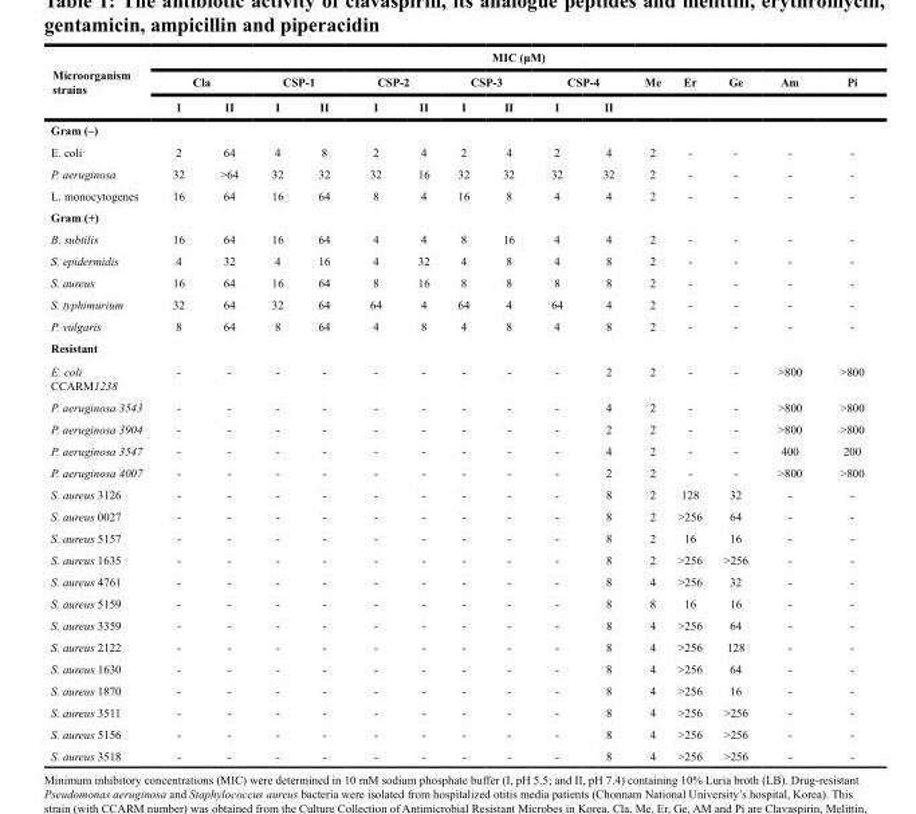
<table><thead><tr><td rowspan="3">Microorganism strains</td><td colspan="15">MIC (μM)</td></tr><tr><td colspan="2">Cla</td><td colspan="2">CSP-1</td><td colspan="2">CSP-2</td><td colspan="2">CSP-3</td><td colspan="2">CSP-4</td><td rowspan="2">Me</td><td rowspan="2">Er</td><td rowspan="2">Ge</td><td rowspan="2">Am</td><td rowspan="2">Pi</td></tr><tr><td>I</td><td>II</td><td>I</td><td>II</td><td>I</td><td>II</td><td>I</td><td>II</td><td>I</td><td>II</td></tr></thead><tbody><tr><td colspan="16">Gram (–)</td></tr><tr><td>E. coli</td><td>2</td><td>64</td><td>4</td><td>8</td><td>2</td><td>4</td><td>2</td><td>4</td><td>2</td><td>4</td><td>2</td><td>-</td><td>-</td><td>-</td><td>-</td></tr><tr><td>P. aeruginosa</td><td>32</td><td>&gt;64</td><td>32</td><td>32</td><td>32</td><td>16</td><td>32</td><td>32</td><td>32</td><td>32</td><td>2</td><td>-</td><td>-</td><td>-</td><td>-</td></tr><tr><td>L. monocytogenes</td><td>16</td><td>64</td><td>16</td><td>64</td><td>8</td><td>4</td><td>16</td><td>8</td><td>4</td><td>4</td><td>2</td><td>-</td><td>-</td><td>-</td><td>-</td></tr><tr><td colspan="16">Gram (+)</td></tr><tr><td>B. subtilis</td><td>16</td><td>64</td><td>16</td><td>64</td><td>4</td><td>4</td><td>8</td><td>16</td><td>4</td><td>4</td><td>2</td><td>-</td><td>-</td><td>-</td><td>-</td></tr><tr><td>S. epidermidis</td><td>4</td><td>32</td><td>4</td><td>16</td><td>4</td><td>32</td><td>4</td><td>8</td><td>4</td><td>8</td><td>2</td><td>-</td><td>-</td><td>-</td><td>-</td></tr><tr><td>S. aureus</td><td>16</td><td>64</td><td>16</td><td>64</td><td>8</td><td>16</td><td>8</td><td>8</td><td>8</td><td>8</td><td>2</td><td>-</td><td>-</td><td>-</td><td>-</td></tr><tr><td>S. typhimurium</td><td>32</td><td>64</td><td>32</td><td>64</td><td>64</td><td>4</td><td>64</td><td>4</td><td>64</td><td>4</td><td>2</td><td>-</td><td>-</td><td>-</td><td>-</td></tr><tr><td>P. vulgaris</td><td>8</td><td>64</td><td>8</td><td>64</td><td>4</td><td>8</td><td>4</td><td>8</td><td>4</td><td>8</td><td>2</td><td>-</td><td>-</td><td>-</td><td>-</td></tr><tr><td colspan="16">Resistant</td></tr><tr><td>E. coli CCARM1238</td><td>-</td><td>-</td><td>-</td><td>-</td><td>-</td><td>-</td><td>-</td><td>-</td><td>-</td><td>2</td><td>2</td><td>-</td><td>-</td><td>&gt;800</td><td>&gt;800</td></tr><tr><td>P. aeruginosa 3543</td><td>-</td><td>-</td><td>-</td><td>-</td><td>-</td><td>-</td><td>-</td><td>-</td><td>-</td><td>4</td><td>2</td><td>-</td><td>-</td><td>&gt;800</td><td>&gt;800</td></tr><tr><td>P. aeruginosa 3904</td><td>-</td><td>-</td><td>-</td><td>-</td><td>-</td><td>-</td><td>-</td><td>-</td><td>-</td><td>2</td><td>2</td><td>-</td><td>-</td><td>&gt;800</td><td>&gt;800</td></tr><tr><td>P. aeruginosa 3547</td><td>-</td><td>-</td><td>-</td><td>-</td><td>-</td><td>-</td><td>-</td><td>-</td><td>-</td><td>4</td><td>2</td><td>-</td><td>-</td><td>400</td><td>200</td></tr><tr><td>P. aeruginosa 4007</td><td>-</td><td>-</td><td>-</td><td>-</td><td>-</td><td>-</td><td>-</td><td>-</td><td>-</td><td>2</td><td>2</td><td>-</td><td>-</td><td>&gt;800</td><td>&gt;800</td></tr><tr><td>S. aureus 3126</td><td>-</td><td>-</td><td>-</td><td>-</td><td>-</td><td>-</td><td>-</td><td>-</td><td>-</td><td>8</td><td>2</td><td>128</td><td>32</td><td>-</td><td>-</td></tr><tr><td>S. aureus 0027</td><td>-</td><td>-</td><td>-</td><td>-</td><td>-</td><td>-</td><td>-</td><td>-</td><td>-</td><td>8</td><td>2</td><td>&gt;256</td><td>64</td><td>-</td><td>-</td></tr><tr><td>S. aureus 5157</td><td>-</td><td>-</td><td>-</td><td>-</td><td>-</td><td>-</td><td>-</td><td>-</td><td>-</td><td>8</td><td>2</td><td>16</td><td>16</td><td>-</td><td>-</td></tr><tr><td>S. aureus 1635</td><td>-</td><td>-</td><td>-</td><td>-</td><td>-</td><td>-</td><td>-</td><td>-</td><td>-</td><td>8</td><td>2</td><td>&gt;256</td><td>&gt;256</td><td>-</td><td>-</td></tr><tr><td>S. aureus 4761</td><td>-</td><td>-</td><td>-</td><td>-</td><td>-</td><td>-</td><td>-</td><td>-</td><td>-</td><td>8</td><td>4</td><td>&gt;256</td><td>32</td><td>-</td><td>-</td></tr><tr><td>S. aureus 5159</td><td>-</td><td>-</td><td>-</td><td>-</td><td>-</td><td>-</td><td>-</td><td>-</td><td>-</td><td>8</td><td>8</td><td>16</td><td>16</td><td>-</td><td>-</td></tr><tr><td>S. aureus 3359</td><td>-</td><td>-</td><td>-</td><td>-</td><td>-</td><td>-</td><td>-</td><td>-</td><td>-</td><td>8</td><td>4</td><td>&gt;256</td><td>64</td><td>-</td><td>-</td></tr><tr><td>S. aureus 2122</td><td>-</td><td>-</td><td>-</td><td>-</td><td>-</td><td>-</td><td>-</td><td>-</td><td>-</td><td>8</td><td>4</td><td>&gt;256</td><td>128</td><td>-</td><td>-</td></tr><tr><td>S. aureus 1630</td><td>-</td><td>-</td><td>-</td><td>-</td><td>-</td><td>-</td><td>-</td><td>-</td><td>-</td><td>8</td><td>4</td><td>&gt;256</td><td>64</td><td>-</td><td>-</td></tr><tr><td>S. aureus 1870</td><td>-</td><td>-</td><td>-</td><td>-</td><td>-</td><td>-</td><td>-</td><td>-</td><td>-</td><td>8</td><td>4</td><td>&gt;256</td><td>16</td><td>-</td><td>-</td></tr><tr><td>S. aureus 3511</td><td>-</td><td>-</td><td>-</td><td>-</td><td>-</td><td>-</td><td>-</td><td>-</td><td>-</td><td>8</td><td>4</td><td>&gt;256</td><td>&gt;256</td><td>-</td><td>-</td></tr><tr><td>S. aureus 5156</td><td>-</td><td>-</td><td>-</td><td>-</td><td>-</td><td>-</td><td>-</td><td>-</td><td>-</td><td>8</td><td>4</td><td>&gt;256</td><td>&gt;256</td><td>-</td><td>-</td></tr><tr><td>S. aureus 3518</td><td>-</td><td>-</td><td>-</td><td>-</td><td>-</td><td>-</td><td>-</td><td>-</td><td>-</td><td>8</td><td>4</td><td>&gt;256</td><td>&gt;256</td><td>-</td><td>-</td></tr></tbody></table>